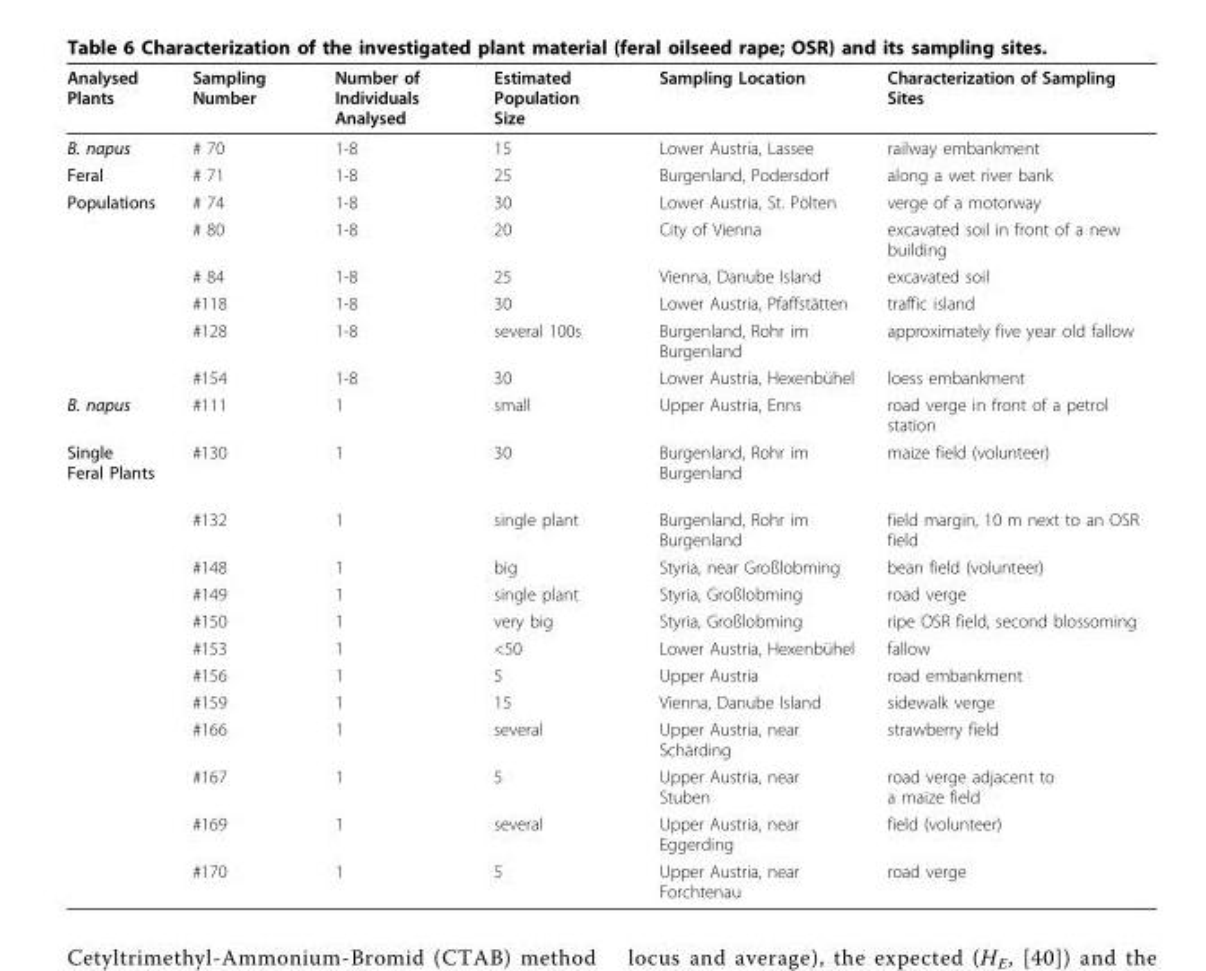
<table><thead><tr><td>Analysed Plants</td><td>Sampling Number</td><td>Number of Individuals Analysed</td><td>Estimated Population Size</td><td>Sampling Location</td><td>Characterization of Sampling Sites</td></tr></thead><tbody><tr><td>B. napus</td><td># 70</td><td>1-8</td><td>15</td><td>Lower Austria, Lassee</td><td>railway embankment</td></tr><tr><td>Feral</td><td># 71</td><td>1-8</td><td>25</td><td>Burgenland, Podersdorf</td><td>along a wet river bank</td></tr><tr><td rowspan="6">Populations</td><td># 74</td><td>1-8</td><td>30</td><td>Lower Austria, St. Pölten</td><td>verge of a motorway</td></tr><tr><td># 80</td><td>1-8</td><td>20</td><td>City of Vienna</td><td>excavated soil in front of a new building</td></tr><tr><td># 84</td><td>1-8</td><td>25</td><td>Vienna, Danube Island</td><td>excavated soil</td></tr><tr><td>#118</td><td>1-8</td><td>30</td><td>Lower Austria, Pfaffstätten</td><td>traffic island</td></tr><tr><td>#128</td><td>1-8</td><td>several 100s</td><td>Burgenland, Rohr im Burgenland</td><td>approximately five year old fallow</td></tr><tr><td>#154</td><td>1-8</td><td>30</td><td>Lower Austria, Hexenbühel</td><td>loess embankment</td></tr><tr><td>B. napus</td><td>#111</td><td>1</td><td>small</td><td>Upper Austria, Enns</td><td>road verge in front of a petrol station</td></tr><tr><td rowspan="12">Single Feral Plants</td><td>#130</td><td>1</td><td>30</td><td>Burgenland, Rohr im Burgenland</td><td>maize field (volunteer)</td></tr><tr><td>#132</td><td>1</td><td>single plant</td><td>Burgenland, Rohr im Burgenland</td><td>field margin, 10 m next to an OSR field</td></tr><tr><td>#148</td><td>1</td><td>big</td><td>Styria, near Großlobming</td><td>bean field (volunteer)</td></tr><tr><td>#149</td><td>1</td><td>single plant</td><td>Styria, Großlobming</td><td>road verge</td></tr><tr><td>#150</td><td>1</td><td>very big</td><td>Styria, Großlobming</td><td>ripe OSR field, second blossoming</td></tr><tr><td>#153</td><td>1</td><td>&lt;50</td><td>Lower Austria, Hexenbühel</td><td>fallow</td></tr><tr><td>#156</td><td>1</td><td>5</td><td>Upper Austria</td><td>road embankment</td></tr><tr><td>#159</td><td>1</td><td>15</td><td>Vienna, Danube Island</td><td>sidewalk verge</td></tr><tr><td>#166</td><td>1</td><td>several</td><td>Upper Austria, near Schärding</td><td>strawberry field</td></tr><tr><td>#167</td><td>1</td><td>5</td><td>Upper Austria, near Stuben</td><td>road verge adjacent to a maize field</td></tr><tr><td>#169</td><td>1</td><td>several</td><td>Upper Austria, near Eggerding</td><td>field (volunteer)</td></tr><tr><td>#170</td><td>1</td><td>5</td><td>Upper Austria, near Forchtenau</td><td>road verge</td></tr></tbody></table>